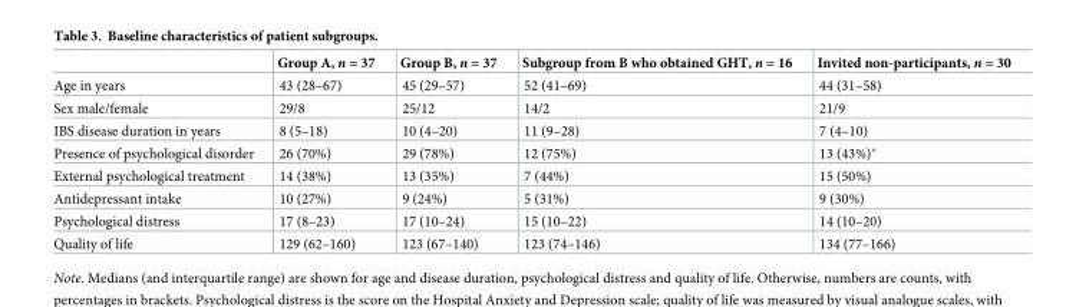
<table><thead><tr><td></td><td>Group A, n = 37</td><td>Group B, n = 37</td><td>Subgroup from B who obtained GHT, n = 16</td><td>Invited non-participants, n = 30</td></tr></thead><tbody><tr><td>Age in years</td><td>43 (28–67)</td><td>45 (29–57)</td><td>52 (41–69)</td><td>44 (31–58)</td></tr><tr><td>Sex male/female</td><td>29/8</td><td>25/12</td><td>14/2</td><td>21/9</td></tr><tr><td>IBS disease duration in years</td><td>8 (5–18)</td><td>10 (4–20)</td><td>11 (9–28)</td><td>7 (4–10)</td></tr><tr><td>Presence of psychological disorder</td><td>26 (70%)</td><td>29 (78%)</td><td>12 (75%)</td><td>13 (43%)*</td></tr><tr><td>External psychological treatment</td><td>14 (38%)</td><td>13 (35%)</td><td>7 (44%)</td><td>15 (50%)</td></tr><tr><td>Antidepressant intake</td><td>10 (27%)</td><td>9 (24%)</td><td>5 (31%)</td><td>9 (30%)</td></tr><tr><td>Psychological distress</td><td>17 (8–23)</td><td>17 (10–24)</td><td>15 (10–22)</td><td>14 (10–20)</td></tr><tr><td>Quality of life</td><td>129 (62–160)</td><td>123 (67–140)</td><td>123 (74–146)</td><td>134 (77–166)</td></tr></tbody></table>